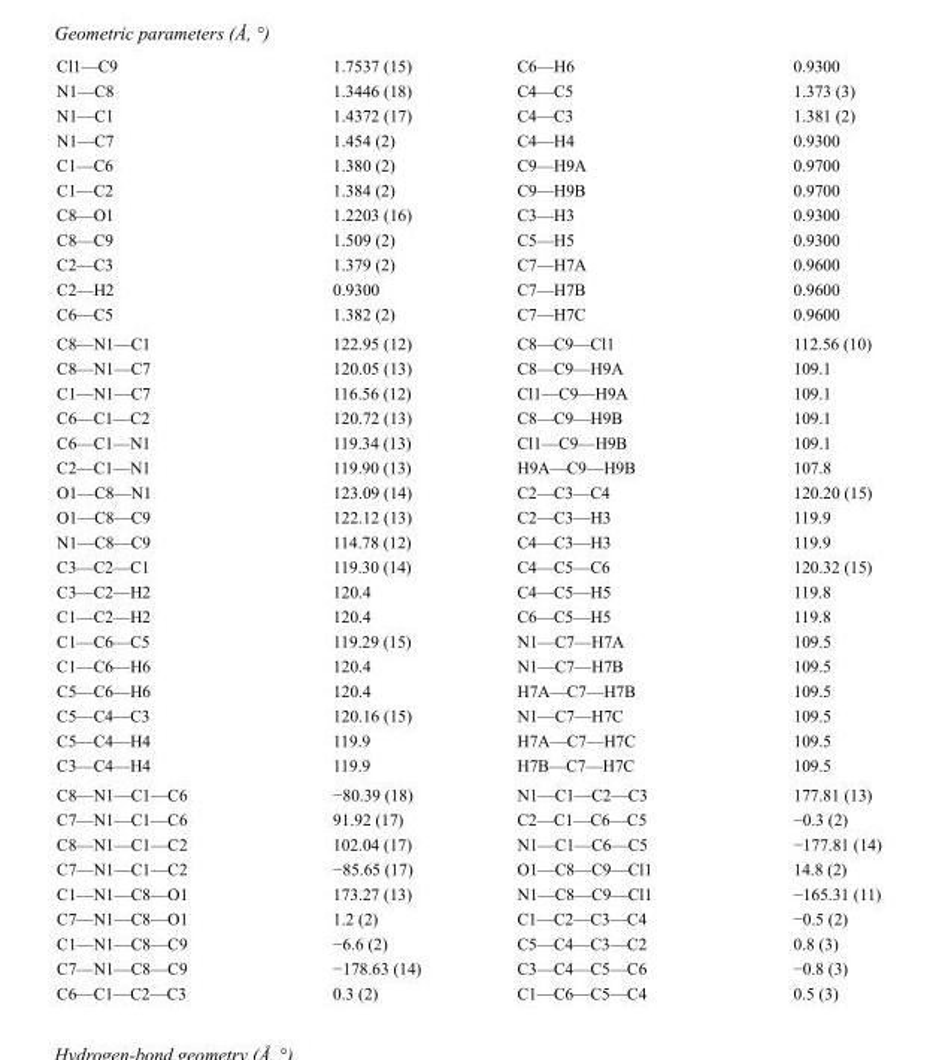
<table><tbody><tr><td>Cl1—C9</td><td>1.7537 (15)</td><td>C6—H6</td><td>0.9300</td></tr><tr><td>N1—C8</td><td>1.3446 (18)</td><td>C4—C5</td><td>1.373 (3)</td></tr><tr><td>N1—C1</td><td>1.4372 (17)</td><td>C4—C3</td><td>1.381 (2)</td></tr><tr><td>N1—C7</td><td>1.454 (2)</td><td>C4—H4</td><td>0.9300</td></tr><tr><td>C1—C6</td><td>1.380 (2)</td><td>C9—H9A</td><td>0.9700</td></tr><tr><td>C1—C2</td><td>1.384 (2)</td><td>C9—H9B</td><td>0.9700</td></tr><tr><td>C8—O1</td><td>1.2203 (16)</td><td>C3—H3</td><td>0.9300</td></tr><tr><td>C8—C9</td><td>1.509 (2)</td><td>C5—H5</td><td>0.9300</td></tr><tr><td>C2—C3</td><td>1.379 (2)</td><td>C7—H7A</td><td>0.9600</td></tr><tr><td>C2—H2</td><td>0.9300</td><td>C7—H7B</td><td>0.9600</td></tr><tr><td>C6—C5</td><td>1.382 (2)</td><td>C7—H7C</td><td>0.9600</td></tr><tr><td>C8—N1—C1</td><td>122.95 (12)</td><td>C8—C9—Cl1</td><td>112.56 (10)</td></tr><tr><td>C8—N1—C7</td><td>120.05 (13)</td><td>C8—C9—H9A</td><td>109.1</td></tr><tr><td>C1—N1—C7</td><td>116.56 (12)</td><td>Cl1—C9—H9A</td><td>109.1</td></tr><tr><td>C6—C1—C2</td><td>120.72 (13)</td><td>C8—C9—H9B</td><td>109.1</td></tr><tr><td>C6—C1—N1</td><td>119.34 (13)</td><td>Cl1—C9—H9B</td><td>109.1</td></tr><tr><td>C2—C1—N1</td><td>119.90 (13)</td><td>H9A—C9—H9B</td><td>107.8</td></tr><tr><td>O1—C8—N1</td><td>123.09 (14)</td><td>C2—C3—C4</td><td>120.20 (15)</td></tr><tr><td>O1—C8—C9</td><td>122.12 (13)</td><td>C2—C3—H3</td><td>119.9</td></tr><tr><td>N1—C8—C9</td><td>114.78 (12)</td><td>C4—C3—H3</td><td>119.9</td></tr><tr><td>C3—C2—C1</td><td>119.30 (14)</td><td>C4—C5—C6</td><td>120.32 (15)</td></tr><tr><td>C3—C2—H2</td><td>120.4</td><td>C4—C5—H5</td><td>119.8</td></tr><tr><td>C1—C2—H2</td><td>120.4</td><td>C6—C5—H5</td><td>119.8</td></tr><tr><td>C1—C6—C5</td><td>119.29 (15)</td><td>N1—C7—H7A</td><td>109.5</td></tr><tr><td>C1—C6—H6</td><td>120.4</td><td>N1—C7—H7B</td><td>109.5</td></tr><tr><td>C5—C6—H6</td><td>120.4</td><td>H7A—C7—H7B</td><td>109.5</td></tr><tr><td>C5—C4—C3</td><td>120.16 (15)</td><td>N1—C7—H7C</td><td>109.5</td></tr><tr><td>C5—C4—H4</td><td>119.9</td><td>H7A—C7—H7C</td><td>109.5</td></tr><tr><td>C3—C4—H4</td><td>119.9</td><td>H7B—C7—H7C</td><td>109.5</td></tr><tr><td>C8—N1—C1—C6</td><td>−80.39 (18)</td><td>N1—C1—C2—C3</td><td>177.81 (13)</td></tr><tr><td>C7—N1—C1—C6</td><td>91.92 (17)</td><td>C2—C1—C6—C5</td><td>−0.3 (2)</td></tr><tr><td>C8—N1—C1—C2</td><td>102.04 (17)</td><td>N1—C1—C6—C5</td><td>−177.81 (14)</td></tr><tr><td>C7—N1—C1—C2</td><td>−85.65 (17)</td><td>O1—C8—C9—Cl1</td><td>14.8 (2)</td></tr><tr><td>C1—N1—C8—O1</td><td>173.27 (13)</td><td>N1—C8—C9—Cl1</td><td>−165.31 (11)</td></tr><tr><td>C7—N1—C8—O1</td><td>1.2 (2)</td><td>C1—C2—C3—C4</td><td>−0.5 (2)</td></tr><tr><td>C1—N1—C8—C9</td><td>−6.6 (2)</td><td>C5—C4—C3—C2</td><td>0.8 (3)</td></tr><tr><td>C7—N1—C8—C9</td><td>−178.63 (14)</td><td>C3—C4—C5—C6</td><td>−0.8 (3)</td></tr><tr><td>C6—C1—C2—C3</td><td>0.3 (2)</td><td>C1—C6—C5—C4</td><td>0.5 (3)</td></tr></tbody></table>